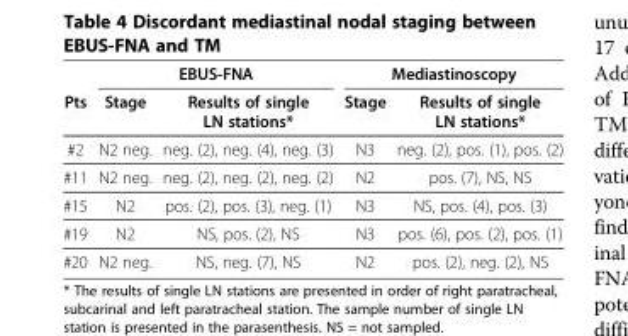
<table><thead><tr><td rowspan="2">Pts</td><td colspan="2">EBUS-FNA</td><td colspan="2">Mediastinoscopy</td></tr><tr><td>Stage</td><td>Results of single LN stations*</td><td>Stage</td><td>Results of single LN stations*</td></tr></thead><tbody><tr><td>#2</td><td>N2 neg.</td><td>neg. (2), neg. (4), neg. (3)</td><td>N3</td><td>neg. (2), pos. (1), pos. (2)</td></tr><tr><td>#11</td><td>N2 neg.</td><td>neg. (2), neg. (2), neg. (2)</td><td>N2</td><td>pos. (7), NS, NS</td></tr><tr><td>#15</td><td>N2</td><td>pos. (2), pos. (3), neg. (1)</td><td>N3</td><td>NS, pos. (4), pos. (3)</td></tr><tr><td>#19</td><td>N2</td><td>NS, pos. (2), NS</td><td>N3</td><td>pos. (6), pos. (2), pos. (1)</td></tr><tr><td>#20</td><td>N2 neg.</td><td>NS, neg. (7), NS</td><td>N2</td><td>pos. (2), neg. (2), NS</td></tr></tbody></table>